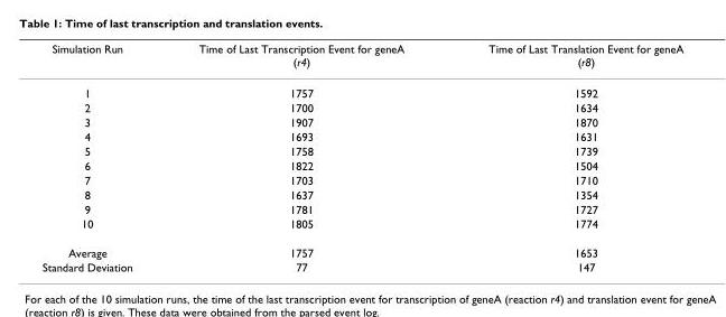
<table><thead><tr><td>Simulation Run</td><td>Time of Last Transcription Event for geneA (r4)</td><td>Time of Last Translation Event for geneA (r8)</td></tr></thead><tbody><tr><td>1</td><td>1757</td><td>1592</td></tr><tr><td>2</td><td>1700</td><td>1634</td></tr><tr><td>3</td><td>1907</td><td>1870</td></tr><tr><td>4</td><td>1693</td><td>1631</td></tr><tr><td>5</td><td>1758</td><td>1739</td></tr><tr><td>6</td><td>1822</td><td>1504</td></tr><tr><td>7</td><td>1703</td><td>1710</td></tr><tr><td>8</td><td>1637</td><td>1354</td></tr><tr><td>9</td><td>1781</td><td>1727</td></tr><tr><td>10</td><td>1805</td><td>1774</td></tr><tr><td>Average</td><td>1757</td><td>1653</td></tr><tr><td>Standard Deviation</td><td>77</td><td>147</td></tr></tbody></table>